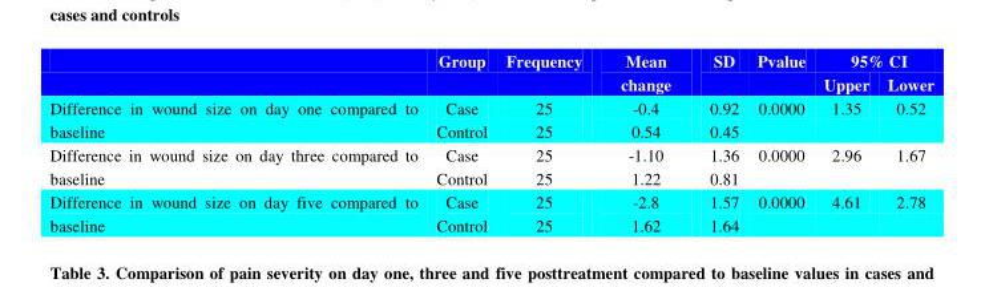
<table><thead><tr><td rowspan="2"></td><td rowspan="2">Group</td><td rowspan="2">Frequency</td><td rowspan="2">Mean change</td><td rowspan="2">SD</td><td rowspan="2">Pvalue</td><td colspan="2">95% CI</td></tr><tr><td>Upper</td><td>Lower</td></tr></thead><tbody><tr><td>Difference in wound size on day one compared to baseline</td><td>Case Control</td><td>25 25</td><td>-0.4 0.54</td><td>0.92 0.45</td><td>0.0000</td><td>1.35</td><td>0.52</td></tr><tr><td>Difference in wound size on day three compared to baseline</td><td>Case Control</td><td>25 25</td><td>-1.10 1.22</td><td>1.36 0.81</td><td>0.0000</td><td>2.96</td><td>1.67</td></tr><tr><td>Difference in wound size on day five compared to baseline</td><td>Case Control</td><td>25 25</td><td>-2.8 1.62</td><td>1.57 1.64</td><td>0.0000</td><td>4.61</td><td>2.78</td></tr></tbody></table>